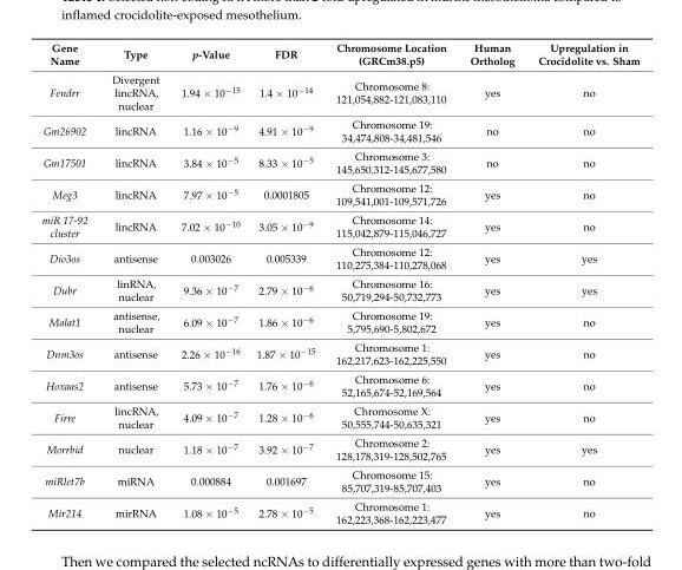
<table><thead><tr><td>Gene Name</td><td>Type</td><td>p-Value</td><td>FDR</td><td>Chromosome Location (GRCm38.p5)</td><td>Human Ortholog</td><td>Upregulation in Crocidolite vs. Sham</td></tr></thead><tbody><tr><td>Fendrr</td><td>Divergent lincRNA, nuclear</td><td>1.94 × 10<sup>−15</sup></td><td>1.4 × 10<sup>−14</sup></td><td>Chromosome 8: 121,054,882-121,083,110</td><td>yes</td><td>no</td></tr><tr><td>Gm26902</td><td>lincRNA</td><td>1.16 × 10<sup>−9</sup></td><td>4.91 × 10<sup>−9</sup></td><td>Chromosome 19: 34,474,808-34,481,546</td><td>no</td><td>no</td></tr><tr><td>Gm17501</td><td>lincRNA</td><td>3.84 × 10<sup>−5</sup></td><td>8.33 × 10<sup>−5</sup></td><td>Chromosome 3: 145,650,312-145,677,580</td><td>no</td><td>no</td></tr><tr><td>Meg3</td><td>lincRNA</td><td>7.97 × 10<sup>−5</sup></td><td>0.0001805</td><td>Chromosome 12: 109,541,001-109,571,726</td><td>yes</td><td>no</td></tr><tr><td>miR 17-92 cluster</td><td>lincRNA</td><td>7.02 × 10<sup>−10</sup></td><td>3.05 × 10<sup>−9</sup></td><td>Chromosome 14: 115,042,879-115,046,727</td><td>yes</td><td>no</td></tr><tr><td>Dio3os</td><td>antisense</td><td>0.003026</td><td>0.005339</td><td>Chromosome 12: 110,275,384-110,278,068</td><td>yes</td><td>yes</td></tr><tr><td>Dubr</td><td>linRNA, nuclear</td><td>9.36 × 10<sup>−7</sup></td><td>2.79 × 10<sup>−6</sup></td><td>Chromosome 16: 50,719,294-50,732,773</td><td>yes</td><td>yes</td></tr><tr><td>Malat1</td><td>antisense, nuclear</td><td>6.09 × 10<sup>−7</sup></td><td>1.86 × 10<sup>−6</sup></td><td>Chromosome 19: 5,795,690-5,802,672</td><td>yes</td><td>no</td></tr><tr><td>Dnm3os</td><td>antisense</td><td>2.26 × 10<sup>−16</sup></td><td>1.87 × 10<sup>−15</sup></td><td>Chromosome 1: 162,217,623-162,225,550</td><td>yes</td><td>no</td></tr><tr><td>Hoxaas2</td><td>antisense</td><td>5.73 × 10<sup>−7</sup></td><td>1.76 × 10<sup>−6</sup></td><td>Chromosome 6: 52,165,674-52,169,564</td><td>yes</td><td>no</td></tr><tr><td>Firre</td><td>lincRNA, nuclear</td><td>4.09 × 10<sup>−7</sup></td><td>1.28 × 10<sup>−6</sup></td><td>Chromosome X: 50,555,744-50,635,321</td><td>yes</td><td>no</td></tr><tr><td>Morrbid</td><td>nuclear</td><td>1.18 × 10<sup>−7</sup></td><td>3.92 × 10<sup>−7</sup></td><td>Chromosome 2: 128,178,319-128,502,765</td><td>yes</td><td>yes</td></tr><tr><td>miRlet7b</td><td>miRNA</td><td>0.000884</td><td>0.001697</td><td>Chromosome 15: 85,707,319-85,707,403</td><td>yes</td><td>no</td></tr><tr><td>Mir214</td><td>mirRNA</td><td>1.08 × 10<sup>−5</sup></td><td>2.78 × 10<sup>−5</sup></td><td>Chromosome 1: 162,223,368-162,223,477</td><td>yes</td><td>no</td></tr></tbody></table>